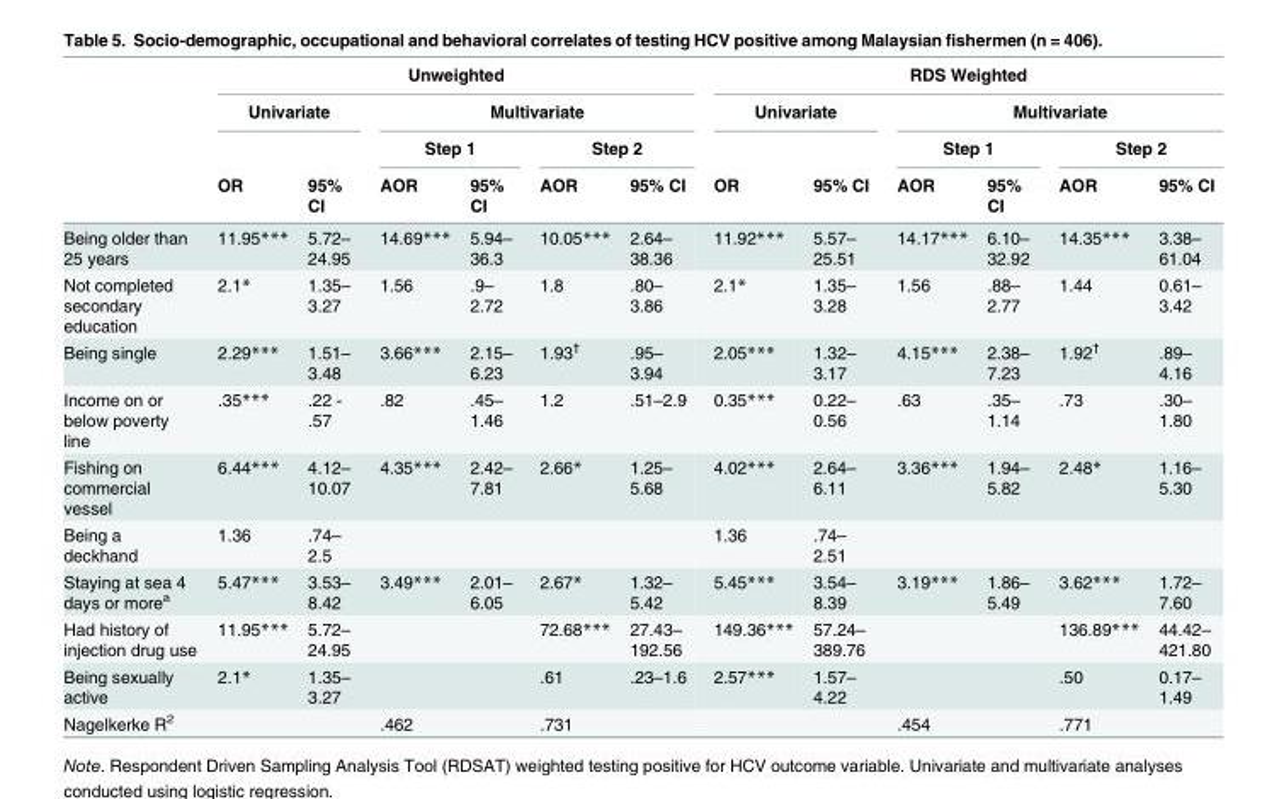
<table><thead><tr><td rowspan="4"></td><td colspan="6">Unweighted</td><td colspan="6">RDS Weighted</td></tr><tr><td colspan="2">Univariate</td><td colspan="4">Multivariate</td><td colspan="2">Univariate</td><td colspan="4">Multivariate</td></tr><tr><td rowspan="2">OR</td><td rowspan="2">95% CI</td><td colspan="2">Step 1</td><td colspan="2">Step 2</td><td rowspan="2">OR</td><td rowspan="2">95% CI</td><td colspan="2">Step 1</td><td colspan="2">Step 2</td></tr><tr><td>AOR</td><td>95% CI</td><td>AOR</td><td>95% CI</td><td>AOR</td><td>95% CI</td><td>AOR</td><td>95% CI</td></tr></thead><tbody><tr><td>Being older than 25 years</td><td>11.95***</td><td>5.72– 24.95</td><td>14.69***</td><td>5.94– 36.3</td><td>10.05***</td><td>2.64– 38.36</td><td>11.92***</td><td>5.57– 25.51</td><td>14.17***</td><td>6.10– 32.92</td><td>14.35***</td><td>3.38– 61.04</td></tr><tr><td>Not completed secondary education</td><td>2.1*</td><td>1.35– 3.27</td><td>1.56</td><td>.9– 2.72</td><td>1.8</td><td>.80– 3.86</td><td>2.1*</td><td>1.35– 3.28</td><td>1.56</td><td>.88– 2.77</td><td>1.44</td><td>0.61– 3.42</td></tr><tr><td>Being single</td><td>2.29***</td><td>1.51– 3.48</td><td>3.66***</td><td>2.15– 6.23</td><td>1.93<sup>†</sup></td><td>.95– 3.94</td><td>2.05***</td><td>1.32– 3.17</td><td>4.15***</td><td>2.38– 7.23</td><td>1.92<sup>†</sup></td><td>.89– 4.16</td></tr><tr><td>Income on or below poverty line</td><td>.35***</td><td>.22 - .57</td><td>.82</td><td>.45– 1.46</td><td>1.2</td><td>.51–2.9</td><td>0.35***</td><td>0.22– 0.56</td><td>.63</td><td>.35– 1.14</td><td>.73</td><td>.30– 1.80</td></tr><tr><td>Fishing on commercial vessel</td><td>6.44***</td><td>4.12– 10.07</td><td>4.35***</td><td>2.42– 7.81</td><td>2.66*</td><td>1.25– 5.68</td><td>4.02***</td><td>2.64– 6.11</td><td>3.36***</td><td>1.94– 5.82</td><td>2.48*</td><td>1.16– 5.30</td></tr><tr><td>Being a deckhand</td><td>1.36</td><td>.74– 2.5</td><td></td><td></td><td></td><td></td><td>1.36</td><td>.74– 2.51</td><td></td><td></td><td></td><td></td></tr><tr><td>Staying at sea 4 days or more<sup>a</sup></td><td>5.47***</td><td>3.53– 8.42</td><td>3.49***</td><td>2.01– 6.05</td><td>2.67*</td><td>1.32– 5.42</td><td>5.45***</td><td>3.54– 8.39</td><td>3.19***</td><td>1.86– 5.49</td><td>3.62***</td><td>1.72– 7.60</td></tr><tr><td>Had history of injection drug use</td><td>11.95***</td><td>5.72– 24.95</td><td></td><td></td><td>72.68***</td><td>27.43– 192.56</td><td>149.36***</td><td>57.24– 389.76</td><td></td><td></td><td>136.89***</td><td>44.42– 421.80</td></tr><tr><td>Being sexually active</td><td>2.1*</td><td>1.35– 3.27</td><td></td><td></td><td>.61</td><td>.23–1.6</td><td>2.57***</td><td>1.57– 4.22</td><td></td><td></td><td>.50</td><td>0.17– 1.49</td></tr><tr><td>Nagelkerke R<sup>2</sup></td><td></td><td></td><td colspan="2">.462</td><td colspan="2">.731</td><td></td><td></td><td colspan="2">.454</td><td colspan="2">.771</td></tr></tbody></table>